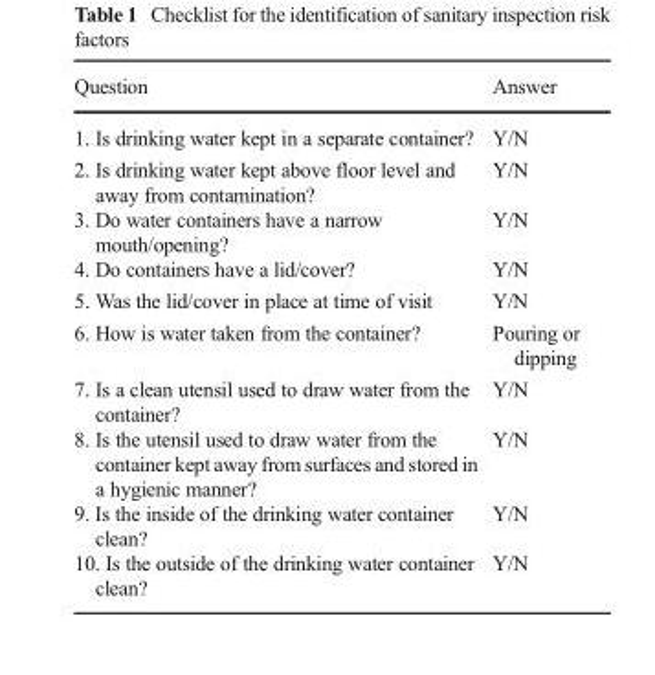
<table><thead><tr><td>Question</td><td>Answer</td></tr></thead><tbody><tr><td>1. Is drinking water kept in a separate container?</td><td>Y/N</td></tr><tr><td>2. Is drinking water kept above floor level and away from contamination?</td><td>Y/N</td></tr><tr><td>3. Do water containers have a narrow mouth/opening?</td><td>Y/N</td></tr><tr><td>4. Do containers have a lid/cover?</td><td>Y/N</td></tr><tr><td>5. Was the lid/cover in place at time of visit</td><td>Y/N</td></tr><tr><td>6. How is water taken from the container?</td><td>Pouring or dipping</td></tr><tr><td>7. Is a clean utensil used to draw water from the container?</td><td>Y/N</td></tr><tr><td>8. Is the utensil used to draw water from the container kept away from surfaces and stored in a hygienic manner?</td><td>Y/N</td></tr><tr><td>9. Is the inside of the drinking water container clean?</td><td>Y/N</td></tr><tr><td>10. Is the outside of the drinking water container clean?</td><td>Y/N</td></tr></tbody></table>